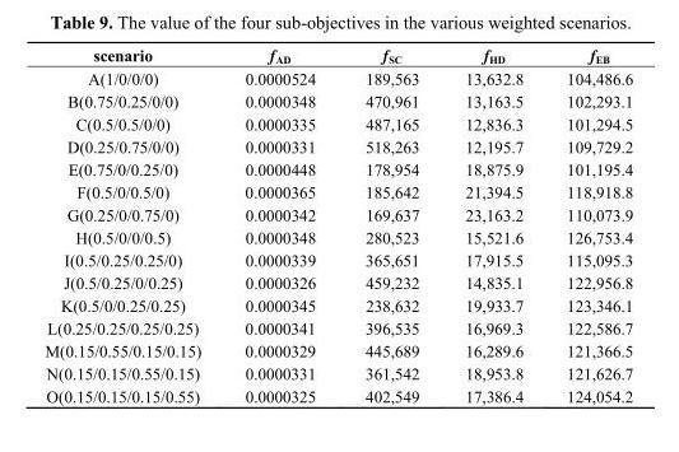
<table><thead><tr><td>scenario</td><td>f<sub>AD</sub></td><td>f<sub>SC</sub></td><td>f<sub>HD</sub></td><td>f<sub>EB</sub></td></tr></thead><tbody><tr><td>A(1/0/0/0)</td><td>0.0000524</td><td>189,563</td><td>13,632.8</td><td>104,486.6</td></tr><tr><td>B(0.75/0.25/0/0)</td><td>0.0000348</td><td>470,961</td><td>13,163.5</td><td>102,293.1</td></tr><tr><td>C(0.5/0.5/0/0)</td><td>0.0000335</td><td>487,165</td><td>12,836.3</td><td>101,294.5</td></tr><tr><td>D(0.25/0.75/0/0)</td><td>0.0000331</td><td>518,263</td><td>12,195.7</td><td>109,729.2</td></tr><tr><td>E(0.75/0/0.25/0)</td><td>0.0000448</td><td>178,954</td><td>18,875.9</td><td>101,195.4</td></tr><tr><td>F(0.5/0/0.5/0)</td><td>0.0000365</td><td>185,642</td><td>21,394.5</td><td>118,918.8</td></tr><tr><td>G(0.25/0/0.75/0)</td><td>0.0000342</td><td>169,637</td><td>23,163.2</td><td>110,073.9</td></tr><tr><td>H(0.5/0/0/0.5)</td><td>0.0000348</td><td>280,523</td><td>15,521.6</td><td>126,753.4</td></tr><tr><td>I(0.5/0.25/0.25/0)</td><td>0.0000339</td><td>365,651</td><td>17,915.5</td><td>115,095.3</td></tr><tr><td>J(0.5/0.25/0/0.25)</td><td>0.0000326</td><td>459,232</td><td>14,835.1</td><td>122,956.8</td></tr><tr><td>K(0.5/0/0.25/0.25)</td><td>0.0000345</td><td>238,632</td><td>19,933.7</td><td>123,346.1</td></tr><tr><td>L(0.25/0.25/0.25/0.25)</td><td>0.0000341</td><td>396,535</td><td>16,969.3</td><td>122,586.7</td></tr><tr><td>M(0.15/0.55/0.15/0.15)</td><td>0.0000329</td><td>445,689</td><td>16,289.6</td><td>121,366.5</td></tr><tr><td>N(0.15/0.15/0.55/0.15)</td><td>0.0000331</td><td>361,542</td><td>18,953.8</td><td>121,626.7</td></tr><tr><td>O(0.15/0.15/0.15/0.55)</td><td>0.0000325</td><td>402,549</td><td>17,386.4</td><td>124,054.2</td></tr></tbody></table>